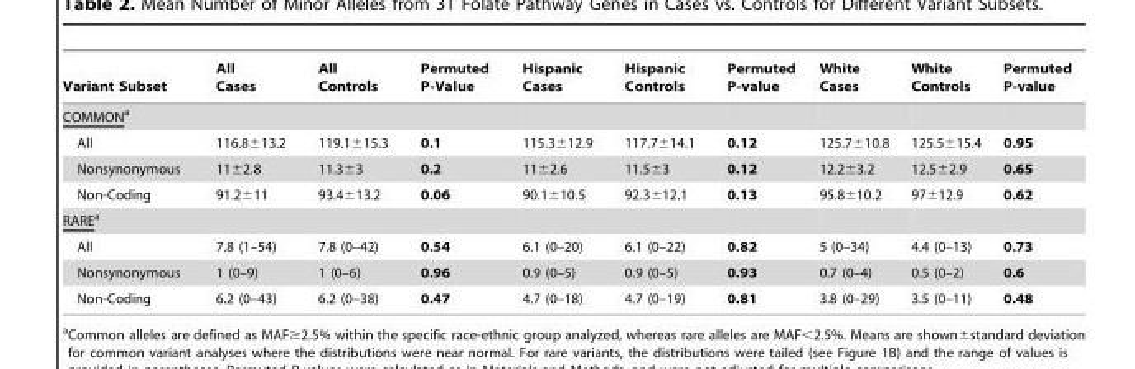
<table><thead><tr><td>Variant Subset</td><td>All Cases</td><td>All Controls</td><td>Permuted P-Value</td><td>Hispanic Cases</td><td>Hispanic Controls</td><td>Permuted P-value</td><td>White Cases</td><td>White Controls</td><td>Permuted P-value</td></tr></thead><tbody><tr><td colspan="10">COMMONa</td></tr><tr><td>All</td><td>116.8±13.2</td><td>119.1±15.3</td><td>0.1</td><td>115.3±12.9</td><td>117.7±14.1</td><td>0.12</td><td>125.7±10.8</td><td>125.5±15.4</td><td>0.95</td></tr><tr><td>Nonsynonymous</td><td>11±2.8</td><td>11.3±3</td><td>0.2</td><td>11±2.6</td><td>11.5±3</td><td>0.12</td><td>12.2±3.2</td><td>12.5±2.9</td><td>0.65</td></tr><tr><td>Non-Coding</td><td>91.2±11</td><td>93.4±13.2</td><td>0.06</td><td>90.1±10.5</td><td>92.3±12.1</td><td>0.13</td><td>95.8±10.2</td><td>97±12.9</td><td>0.62</td></tr><tr><td colspan="10">RAREa</td></tr><tr><td>All</td><td>7.8 (1–54)</td><td>7.8 (0–42)</td><td>0.54</td><td>6.1 (0–20)</td><td>6.1 (0–22)</td><td>0.82</td><td>5 (0–34)</td><td>4.4 (0–13)</td><td>0.73</td></tr><tr><td>Nonsynonymous</td><td>1 (0–9)</td><td>1 (0–6)</td><td>0.96</td><td>0.9 (0–5)</td><td>0.9 (0–5)</td><td>0.93</td><td>0.7 (0–4)</td><td>0.5 (0–2)</td><td>0.6</td></tr><tr><td>Non-Coding</td><td>6.2 (0–43)</td><td>6.2 (0–38)</td><td>0.47</td><td>4.7 (0–18)</td><td>4.7 (0–19)</td><td>0.81</td><td>3.8 (0–29)</td><td>3.5 (0–11)</td><td>0.48</td></tr></tbody></table>